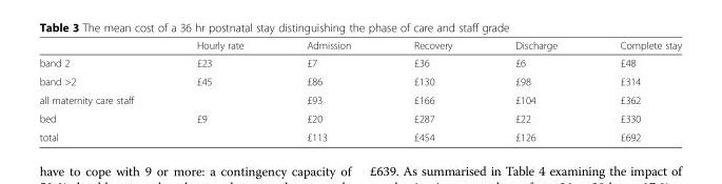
<table><thead><tr><td></td><td>Hourly rate</td><td>Admission</td><td>Recovery</td><td>Discharge</td><td>Complete stay</td></tr></thead><tbody><tr><td>band 2</td><td>£23</td><td>£7</td><td>£36</td><td>£6</td><td>£48</td></tr><tr><td>band &gt;2</td><td>£45</td><td>£86</td><td>£130</td><td>£98</td><td>£314</td></tr><tr><td>all maternity care staff</td><td></td><td>£93</td><td>£166</td><td>£104</td><td>£362</td></tr><tr><td>bed</td><td>£9</td><td>£20</td><td>£287</td><td>£22</td><td>£330</td></tr><tr><td>total</td><td></td><td>£113</td><td>£454</td><td>£126</td><td>£692</td></tr></tbody></table>